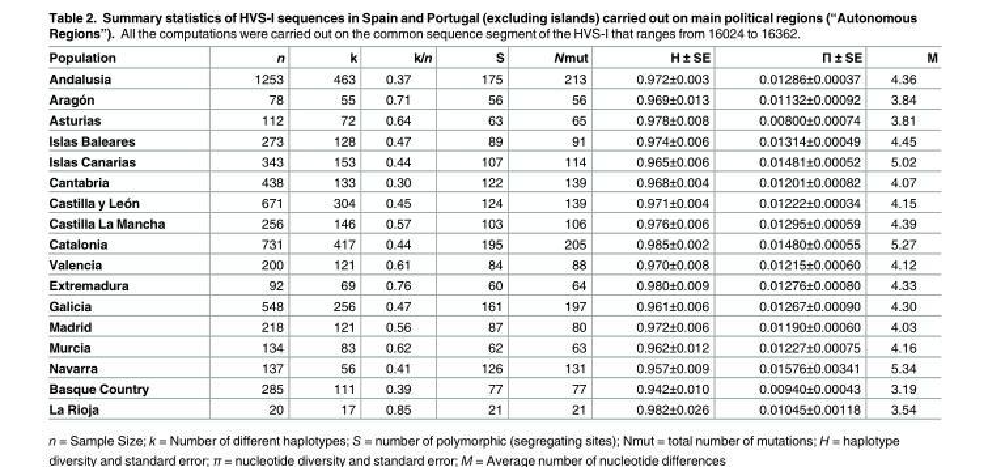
<table><thead><tr><td>Population</td><td>n</td><td>k</td><td>k/n</td><td>S</td><td>Nmut</td><td>H ± SE</td><td>Π ± SE</td><td>M</td></tr></thead><tbody><tr><td>Andalusia</td><td>1253</td><td>463</td><td>0.37</td><td>175</td><td>213</td><td>0.972±0.003</td><td>0.01286±0.00037</td><td>4.36</td></tr><tr><td>Aragón</td><td>78</td><td>55</td><td>0.71</td><td>56</td><td>56</td><td>0.969±0.013</td><td>0.01132±0.00092</td><td>3.84</td></tr><tr><td>Asturias</td><td>112</td><td>72</td><td>0.64</td><td>63</td><td>65</td><td>0.978±0.008</td><td>0.00800±0.00074</td><td>3.81</td></tr><tr><td>Islas Baleares</td><td>273</td><td>128</td><td>0.47</td><td>89</td><td>91</td><td>0.974±0.006</td><td>0.01314±0.00049</td><td>4.45</td></tr><tr><td>Islas Canarias</td><td>343</td><td>153</td><td>0.44</td><td>107</td><td>114</td><td>0.965±0.006</td><td>0.01481±0.00052</td><td>5.02</td></tr><tr><td>Cantabria</td><td>438</td><td>133</td><td>0.30</td><td>122</td><td>139</td><td>0.968±0.004</td><td>0.01201±0.00082</td><td>4.07</td></tr><tr><td>Castilla y León</td><td>671</td><td>304</td><td>0.45</td><td>124</td><td>139</td><td>0.971±0.004</td><td>0.01222±0.00034</td><td>4.15</td></tr><tr><td>Castilla La Mancha</td><td>256</td><td>146</td><td>0.57</td><td>103</td><td>106</td><td>0.976±0.006</td><td>0.01295±0.00059</td><td>4.39</td></tr><tr><td>Catalonia</td><td>731</td><td>417</td><td>0.44</td><td>195</td><td>205</td><td>0.985±0.002</td><td>0.01480±0.00055</td><td>5.27</td></tr><tr><td>Valencia</td><td>200</td><td>121</td><td>0.61</td><td>84</td><td>88</td><td>0.970±0.008</td><td>0.01215±0.00060</td><td>4.12</td></tr><tr><td>Extremadura</td><td>92</td><td>69</td><td>0.76</td><td>60</td><td>64</td><td>0.980±0.009</td><td>0.01276±0.00080</td><td>4.33</td></tr><tr><td>Galicia</td><td>548</td><td>256</td><td>0.47</td><td>161</td><td>197</td><td>0.961±0.006</td><td>0.01267±0.00090</td><td>4.30</td></tr><tr><td>Madrid</td><td>218</td><td>121</td><td>0.56</td><td>87</td><td>80</td><td>0.972±0.006</td><td>0.01190±0.00060</td><td>4.03</td></tr><tr><td>Murcia</td><td>134</td><td>83</td><td>0.62</td><td>62</td><td>63</td><td>0.962±0.012</td><td>0.01227±0.00075</td><td>4.16</td></tr><tr><td>Navarra</td><td>137</td><td>56</td><td>0.41</td><td>126</td><td>131</td><td>0.957±0.009</td><td>0.01576±0.00341</td><td>5.34</td></tr><tr><td>Basque Country</td><td>285</td><td>111</td><td>0.39</td><td>77</td><td>77</td><td>0.942±0.010</td><td>0.00940±0.00043</td><td>3.19</td></tr><tr><td>La Rioja</td><td>20</td><td>17</td><td>0.85</td><td>21</td><td>21</td><td>0.982±0.026</td><td>0.01045±0.00118</td><td>3.54</td></tr></tbody></table>